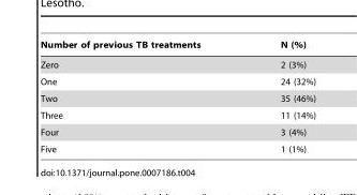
<table><thead><tr><td>Number of previous TB treatments</td><td>N (%)</td></tr></thead><tbody><tr><td>Zero</td><td>2 (3%)</td></tr><tr><td>One</td><td>24 (32%)</td></tr><tr><td>Two</td><td>35 (46%)</td></tr><tr><td>Three</td><td>11 (14%)</td></tr><tr><td>Four</td><td>3 (4%)</td></tr><tr><td>Five</td><td>1 (1%)</td></tr></tbody></table>